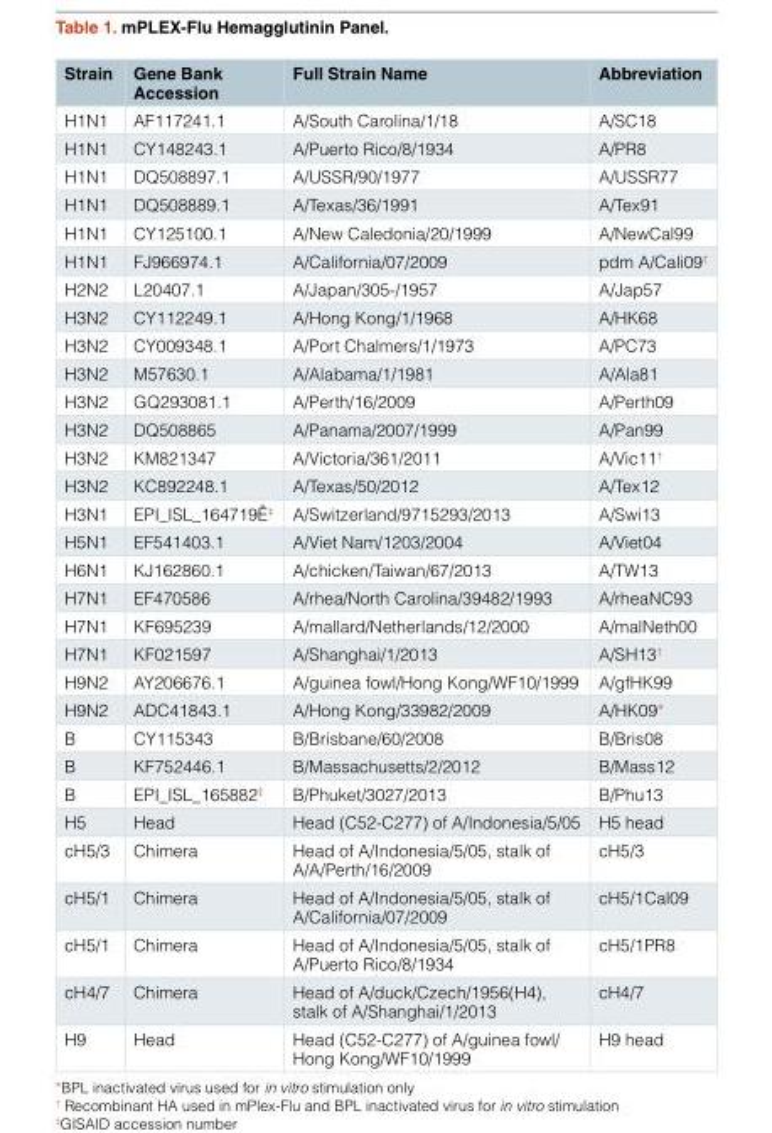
<table><thead><tr><td>Strain</td><td>Gene Bank Accession</td><td>Full Strain Name</td><td>Abbreviation</td></tr></thead><tbody><tr><td>H1N1</td><td>AF117241.1</td><td>A/South Carolina/1/18</td><td>A/SC18</td></tr><tr><td>H1N1</td><td>CY148243.1</td><td>A/Puerto Rico/8/1934</td><td>A/PR8</td></tr><tr><td>H1N1</td><td>DQ508897.1</td><td>A/USSR/90/1977</td><td>A/USSR77</td></tr><tr><td>H1N1</td><td>DQ508889.1</td><td>A/Texas/36/1991</td><td>A/Tex91</td></tr><tr><td>H1N1</td><td>CY125100.1</td><td>A/New Caledonia/20/1999</td><td>A/NewCal99</td></tr><tr><td>H1N1</td><td>FJ966974.1</td><td>A/California/07/2009</td><td>pdm A/Cali09<sup>†</sup></td></tr><tr><td>H2N2</td><td>L20407.1</td><td>A/Japan/305-/1957</td><td>A/Jap57</td></tr><tr><td>H3N2</td><td>CY112249.1</td><td>A/Hong Kong/1/1968</td><td>A/HK68</td></tr><tr><td>H3N2</td><td>CY009348.1</td><td>A/Port Chalmers/1/1973</td><td>A/PC73</td></tr><tr><td>H3N2</td><td>M57630.1</td><td>A/Alabama/1/1981</td><td>A/Ala81</td></tr><tr><td>H3N2</td><td>GQ293081.1</td><td>A/Perth/16/2009</td><td>A/Perth09</td></tr><tr><td>H3N2</td><td>DQ508865</td><td>A/Panama/2007/1999</td><td>A/Pan99</td></tr><tr><td>H3N2</td><td>KM821347</td><td>A/Victoria/361/2011</td><td>A/Vic11<sup>†</sup></td></tr><tr><td>H3N2</td><td>KC892248.1</td><td>A/Texas/50/2012</td><td>A/Tex12</td></tr><tr><td>H3N1</td><td>EPI_ISL_164719Ê<sup>‡</sup></td><td>A/Switzerland/9715293/2013</td><td>A/Swi13</td></tr><tr><td>H5N1</td><td>EF541403.1</td><td>A/Viet Nam/1203/2004</td><td>A/Viet04</td></tr><tr><td>H6N1</td><td>KJ162860.1</td><td>A/chicken/Taiwan/67/2013</td><td>A/TW13</td></tr><tr><td>H7N1</td><td>EF470586</td><td>A/rhea/North Carolina/39482/1993</td><td>A/rheaNC93</td></tr><tr><td>H7N1</td><td>KF695239</td><td>A/mallard/Netherlands/12/2000</td><td>A/malNeth00</td></tr><tr><td>H7N1</td><td>KF021597</td><td>A/Shanghai/1/2013</td><td>A/SH13<sup>†</sup></td></tr><tr><td>H9N2</td><td>AY206676.1</td><td>A/guinea fowl/Hong Kong/WF10/1999</td><td>A/gfHK99</td></tr><tr><td>H9N2</td><td>ADC41843.1</td><td>A/Hong Kong/33982/2009</td><td>A/HK09*</td></tr><tr><td>B</td><td>CY115343</td><td>B/Brisbane/60/2008</td><td>B/Bris08</td></tr><tr><td>B</td><td>KF752446.1</td><td>B/Massachusetts/2/2012</td><td>B/Mass12</td></tr><tr><td>B</td><td>EPI_ISL_165882<sup>‡</sup></td><td>B/Phuket/3027/2013</td><td>B/Phu13</td></tr><tr><td>H5</td><td>Head</td><td>Head (C52-C277) of A/Indonesia/5/05</td><td>H5 head</td></tr><tr><td>cH5/3</td><td>Chimera</td><td>Head of A/Indonesia/5/05, stalk of A/A/Perth/16/2009</td><td>cH5/3</td></tr><tr><td>cH5/1</td><td>Chimera</td><td>Head of A/Indonesia/5/05, stalk of A/California/07/2009</td><td>cH5/1Cal09</td></tr><tr><td>cH5/1</td><td>Chimera</td><td>Head of A/Indonesia/5/05, stalk of A/Puerto Rico/8/1934</td><td>cH5/1PR8</td></tr><tr><td>cH4/7</td><td>Chimera</td><td>Head of A/duck/Czech/1956(H4), stalk of A/Shanghai/1/2013</td><td>cH4/7</td></tr><tr><td>H9</td><td>Head</td><td>Head (C52-C277) of A/guinea fowl/ Hong Kong/WF10/1999</td><td>H9 head</td></tr></tbody></table>